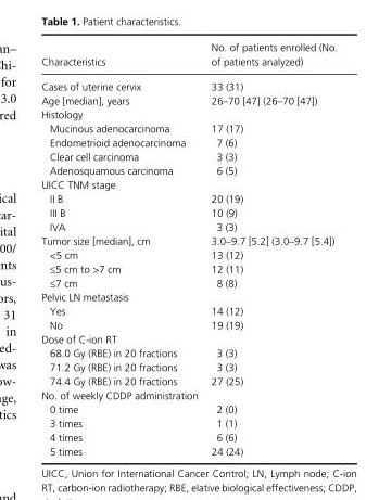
<table><thead><tr><td>Characteristics</td><td>No. of patients enrolled (No. of patients analyzed)</td></tr></thead><tbody><tr><td>Cases of uterine cervix</td><td>33 (31)</td></tr><tr><td>Age [median], years</td><td>26–70 [47] (26–70 [47])</td></tr><tr><td colspan="2">Histology</td></tr><tr><td>Mucinous adenocarcinoma</td><td>17 (17)</td></tr><tr><td>Endometrioid adenocarcinoma</td><td>7 (6)</td></tr><tr><td>Clear cell carcinoma</td><td>3 (3)</td></tr><tr><td>Adenosquamous carcinoma</td><td>6 (5)</td></tr><tr><td colspan="2">UICC TNM stage</td></tr><tr><td>II B</td><td>20 (19)</td></tr><tr><td>III B</td><td>10 (9)</td></tr><tr><td>IVA</td><td>3 (3)</td></tr><tr><td>Tumor size [median], cm</td><td>3.0–9.7 [5.2] (3.0–9.7 [5.4])</td></tr><tr><td>&lt;5 cm</td><td>13 (12)</td></tr><tr><td>≤5 cm to &gt;7 cm</td><td>12 (11)</td></tr><tr><td>≤7 cm</td><td>8 (8)</td></tr><tr><td colspan="2">Pelvic LN metastasis</td></tr><tr><td>Yes</td><td>14 (12)</td></tr><tr><td>No</td><td>19 (19)</td></tr><tr><td colspan="2">Dose of C- ion RT</td></tr><tr><td>68.0 Gy (RBE) in 20 fractions</td><td>3 (3)</td></tr><tr><td>71.2 Gy (RBE) in 20 fractions</td><td>3 (3)</td></tr><tr><td>74.4 Gy (RBE) in 20 fractions</td><td>27 (25)</td></tr><tr><td colspan="2">No. of weekly CDDP administration</td></tr><tr><td>0 time</td><td>2 (0)</td></tr><tr><td>3 times</td><td>1 (1)</td></tr><tr><td>4 times</td><td>6 (6)</td></tr><tr><td>5 times</td><td>24 (24)</td></tr></tbody></table>